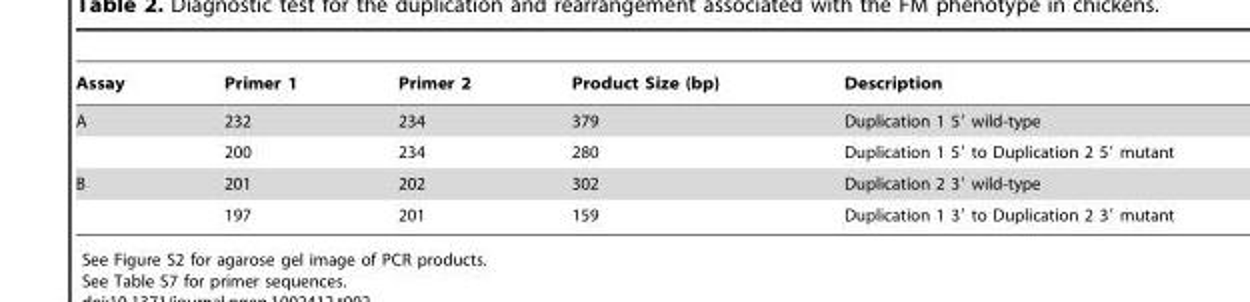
<table><thead><tr><td>Assay</td><td>Primer 1</td><td>Primer 2</td><td>Product Size (bp)</td><td>Description</td></tr></thead><tbody><tr><td rowspan="2">A</td><td>232</td><td>234</td><td>379</td><td>Duplication 1 5′ wild-type</td></tr><tr><td>200</td><td>234</td><td>280</td><td>Duplication 1 5′ to Duplication 2 5′ mutant</td></tr><tr><td rowspan="2">B</td><td>201</td><td>202</td><td>302</td><td>Duplication 2 3′ wild-type</td></tr><tr><td>197</td><td>201</td><td>159</td><td>Duplication 1 3′ to Duplication 2 3′ mutant</td></tr></tbody></table>